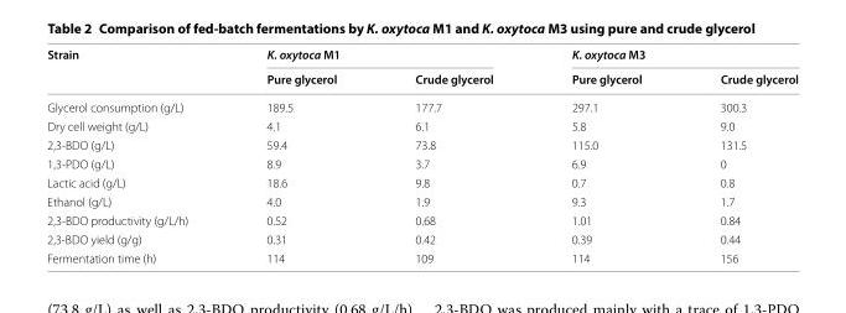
<table><thead><tr><td rowspan="2">Strain</td><td colspan="2">K. oxytoca M1</td><td colspan="2">K. oxytoca M3</td></tr><tr><td>Pure glycerol</td><td>Crude glycerol</td><td>Pure glycerol</td><td>Crude glycerol</td></tr></thead><tbody><tr><td>Glycerol consumption (g/L)</td><td>189.5</td><td>177.7</td><td>297.1</td><td>300.3</td></tr><tr><td>Dry cell weight (g/L)</td><td>4.1</td><td>6.1</td><td>5.8</td><td>9.0</td></tr><tr><td>2,3-BDO (g/L)</td><td>59.4</td><td>73.8</td><td>115.0</td><td>131.5</td></tr><tr><td>1,3-PDO (g/L)</td><td>8.9</td><td>3.7</td><td>6.9</td><td>0</td></tr><tr><td>Lactic acid (g/L)</td><td>18.6</td><td>9.8</td><td>0.7</td><td>0.8</td></tr><tr><td>Ethanol (g/L)</td><td>4.0</td><td>1.9</td><td>9.3</td><td>1.7</td></tr><tr><td>2,3-BDO productivity (g/L/h)</td><td>0.52</td><td>0.68</td><td>1.01</td><td>0.84</td></tr><tr><td>2,3-BDO yield (g/g)</td><td>0.31</td><td>0.42</td><td>0.39</td><td>0.44</td></tr><tr><td>Fermentation time (h)</td><td>114</td><td>109</td><td>114</td><td>156</td></tr></tbody></table>